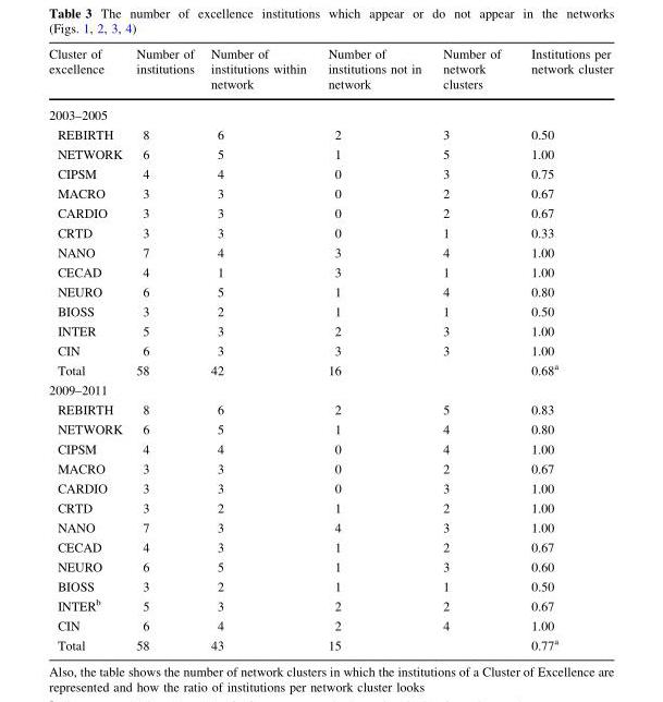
<table><thead><tr><td>Cluster of excellence</td><td>Number of institutions</td><td>Number of institutions within network</td><td>Number of institutions not in network</td><td>Number of network clusters</td><td>Institutions per network cluster</td></tr></thead><tbody><tr><td colspan="6">2003–2005</td></tr><tr><td>REBIRTH</td><td>8</td><td>6</td><td>2</td><td>3</td><td>0.50</td></tr><tr><td>NETWORK</td><td>6</td><td>5</td><td>1</td><td>5</td><td>1.00</td></tr><tr><td>CIPSM</td><td>4</td><td>4</td><td>0</td><td>3</td><td>0.75</td></tr><tr><td>MACRO</td><td>3</td><td>3</td><td>0</td><td>2</td><td>0.67</td></tr><tr><td>CARDIO</td><td>3</td><td>3</td><td>0</td><td>2</td><td>0.67</td></tr><tr><td>CRTD</td><td>3</td><td>3</td><td>0</td><td>1</td><td>0.33</td></tr><tr><td>NANO</td><td>7</td><td>4</td><td>3</td><td>4</td><td>1.00</td></tr><tr><td>CECAD</td><td>4</td><td>1</td><td>3</td><td>1</td><td>1.00</td></tr><tr><td>NEURO</td><td>6</td><td>5</td><td>1</td><td>4</td><td>0.80</td></tr><tr><td>BIOSS</td><td>3</td><td>2</td><td>1</td><td>1</td><td>0.50</td></tr><tr><td>INTER</td><td>5</td><td>3</td><td>2</td><td>3</td><td>1.00</td></tr><tr><td>CIN</td><td>6</td><td>3</td><td>3</td><td>3</td><td>1.00</td></tr><tr><td>Total</td><td>58</td><td>42</td><td>16</td><td></td><td>0.68<sup>a</sup></td></tr><tr><td colspan="6">2009–2011</td></tr><tr><td>REBIRTH</td><td>8</td><td>6</td><td>2</td><td>5</td><td>0.83</td></tr><tr><td>NETWORK</td><td>6</td><td>5</td><td>1</td><td>4</td><td>0.80</td></tr><tr><td>CIPSM</td><td>4</td><td>4</td><td>0</td><td>4</td><td>1.00</td></tr><tr><td>MACRO</td><td>3</td><td>3</td><td>0</td><td>2</td><td>0.67</td></tr><tr><td>CARDIO</td><td>3</td><td>3</td><td>0</td><td>3</td><td>1.00</td></tr><tr><td>CRTD</td><td>3</td><td>2</td><td>1</td><td>2</td><td>1.00</td></tr><tr><td>NANO</td><td>7</td><td>3</td><td>4</td><td>3</td><td>1.00</td></tr><tr><td>CECAD</td><td>4</td><td>3</td><td>1</td><td>2</td><td>0.67</td></tr><tr><td>NEURO</td><td>6</td><td>5</td><td>1</td><td>3</td><td>0.60</td></tr><tr><td>BIOSS</td><td>3</td><td>2</td><td>1</td><td>1</td><td>0.50</td></tr><tr><td>INTER<sup>b</sup></td><td>5</td><td>3</td><td>2</td><td>2</td><td>0.67</td></tr><tr><td>CIN</td><td>6</td><td>4</td><td>2</td><td>4</td><td>1.00</td></tr><tr><td>Total</td><td>58</td><td>43</td><td>15</td><td></td><td>0.77<sup>a</sup></td></tr></tbody></table>